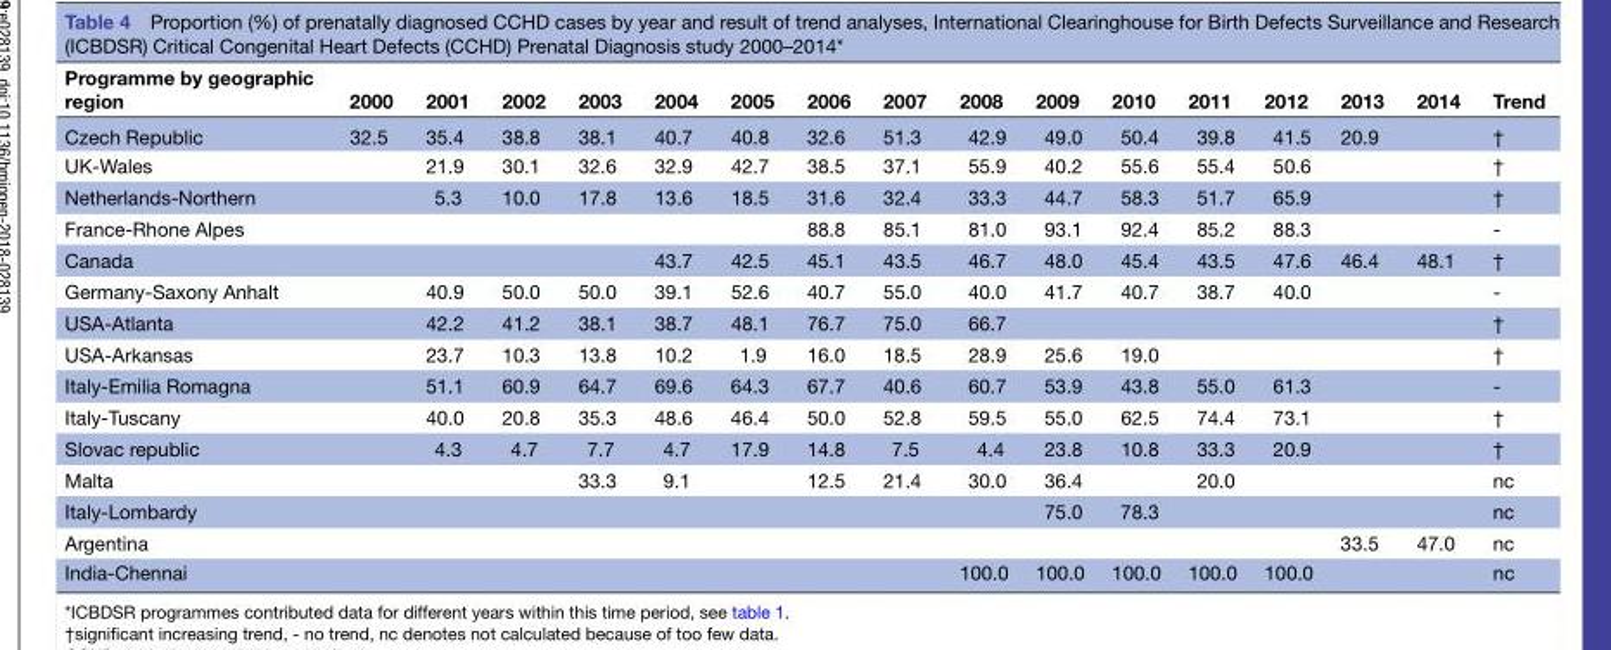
<table><thead><tr><td>Programme by geographic region</td><td>2000</td><td>2001</td><td>2002</td><td>2003</td><td>2004</td><td>2005</td><td>2006</td><td>2007</td><td>2008</td><td>2009</td><td>2010</td><td>2011</td><td>2012</td><td>2013</td><td>2014</td><td>Trend</td></tr></thead><tbody><tr><td>Czech Republic</td><td>32.5</td><td>35.4</td><td>38.8</td><td>38.1</td><td>40.7</td><td>40.8</td><td>32.6</td><td>51.3</td><td>42.9</td><td>49.0</td><td>50.4</td><td>39.8</td><td>41.5</td><td>20.9</td><td></td><td>†</td></tr><tr><td>UK-Wales</td><td></td><td>21.9</td><td>30.1</td><td>32.6</td><td>32.9</td><td>42.7</td><td>38.5</td><td>37.1</td><td>55.9</td><td>40.2</td><td>55.6</td><td>55.4</td><td>50.6</td><td></td><td></td><td>†</td></tr><tr><td>Netherlands-Northern</td><td></td><td>5.3</td><td>10.0</td><td>17.8</td><td>13.6</td><td>18.5</td><td>31.6</td><td>32.4</td><td>33.3</td><td>44.7</td><td>58.3</td><td>51.7</td><td>65.9</td><td></td><td></td><td>†</td></tr><tr><td>France-Rhone Alpes</td><td></td><td></td><td></td><td></td><td></td><td></td><td>88.8</td><td>85.1</td><td>81.0</td><td>93.1</td><td>92.4</td><td>85.2</td><td>88.3</td><td></td><td></td><td>-</td></tr><tr><td>Canada</td><td></td><td></td><td></td><td></td><td>43.7</td><td>42.5</td><td>45.1</td><td>43.5</td><td>46.7</td><td>48.0</td><td>45.4</td><td>43.5</td><td>47.6</td><td>46.4</td><td>48.1</td><td>†</td></tr><tr><td>Germany-Saxony Anhalt</td><td></td><td>40.9</td><td>50.0</td><td>50.0</td><td>39.1</td><td>52.6</td><td>40.7</td><td>55.0</td><td>40.0</td><td>41.7</td><td>40.7</td><td>38.7</td><td>40.0</td><td></td><td></td><td>-</td></tr><tr><td>USA-Atlanta</td><td></td><td>42.2</td><td>41.2</td><td>38.1</td><td>38.7</td><td>48.1</td><td>76.7</td><td>75.0</td><td>66.7</td><td></td><td></td><td></td><td></td><td></td><td></td><td>†</td></tr><tr><td>USA-Arkansas</td><td></td><td>23.7</td><td>10.3</td><td>13.8</td><td>10.2</td><td>1.9</td><td>16.0</td><td>18.5</td><td>28.9</td><td>25.6</td><td>19.0</td><td></td><td></td><td></td><td></td><td>†</td></tr><tr><td>Italy-Emilia Romagna</td><td></td><td>51.1</td><td>60.9</td><td>64.7</td><td>69.6</td><td>64.3</td><td>67.7</td><td>40.6</td><td>60.7</td><td>53.9</td><td>43.8</td><td>55.0</td><td>61.3</td><td></td><td></td><td>-</td></tr><tr><td>Italy-Tuscany</td><td></td><td>40.0</td><td>20.8</td><td>35.3</td><td>48.6</td><td>46.4</td><td>50.0</td><td>52.8</td><td>59.5</td><td>55.0</td><td>62.5</td><td>74.4</td><td>73.1</td><td></td><td></td><td>†</td></tr><tr><td>Slovac republic</td><td></td><td>4.3</td><td>4.7</td><td>7.7</td><td>4.7</td><td>17.9</td><td>14.8</td><td>7.5</td><td>4.4</td><td>23.8</td><td>10.8</td><td>33.3</td><td>20.9</td><td></td><td></td><td>†</td></tr><tr><td>Malta</td><td></td><td></td><td></td><td>33.3</td><td>9.1</td><td></td><td>12.5</td><td>21.4</td><td>30.0</td><td>36.4</td><td></td><td>20.0</td><td></td><td></td><td></td><td>nc</td></tr><tr><td>Italy-Lombardy</td><td></td><td></td><td></td><td></td><td></td><td></td><td></td><td></td><td></td><td>75.0</td><td>78.3</td><td></td><td></td><td></td><td></td><td>nc</td></tr><tr><td>Argentina</td><td></td><td></td><td></td><td></td><td></td><td></td><td></td><td></td><td></td><td></td><td></td><td></td><td></td><td>33.5</td><td>47.0</td><td>nc</td></tr><tr><td>India-Chennai</td><td></td><td></td><td></td><td></td><td></td><td></td><td></td><td></td><td>100.0</td><td>100.0</td><td>100.0</td><td>100.0</td><td>100.0</td><td></td><td></td><td>nc</td></tr></tbody></table>